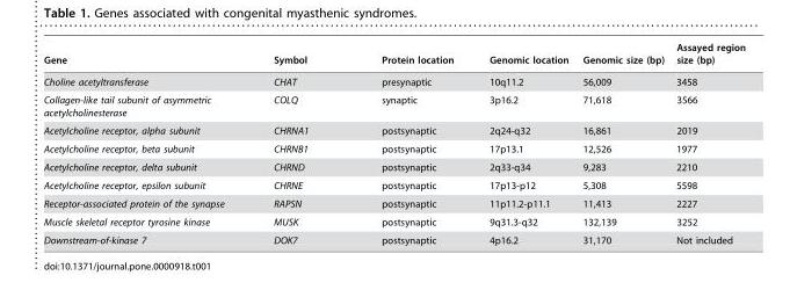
<table><thead><tr><td>Gene</td><td>Symbol</td><td>Protein location</td><td>Genomic location</td><td>Genomic size (bp)</td><td>Assayed region size (bp)</td></tr></thead><tbody><tr><td>Choline acetyltransferase</td><td>CHAT</td><td>presynaptic</td><td>10q11.2</td><td>56,009</td><td>3458</td></tr><tr><td>Collagen-like tail subunit of asymmetric acetylcholinesterase</td><td>COLQ</td><td>synaptic</td><td>3p16.2</td><td>71,618</td><td>3566</td></tr><tr><td>Acetylcholine receptor, alpha subunit</td><td>CHRNA1</td><td>postsynaptic</td><td>2q24-q32</td><td>16,861</td><td>2019</td></tr><tr><td>Acetylcholine receptor, beta subunit</td><td>CHRNB1</td><td>postsynaptic</td><td>17p13.1</td><td>12,526</td><td>1977</td></tr><tr><td>Acetylcholine receptor, delta subunit</td><td>CHRND</td><td>postsynaptic</td><td>2q33-q34</td><td>9,283</td><td>2210</td></tr><tr><td>Acetylcholine receptor, epsilon subunit</td><td>CHRNE</td><td>postsynaptic</td><td>17p13-p12</td><td>5,308</td><td>5598</td></tr><tr><td>Receptor-associated protein of the synapse</td><td>RAPSN</td><td>postsynaptic</td><td>11p11.2-p11.1</td><td>11,413</td><td>2227</td></tr><tr><td>Muscle skeletal receptor tyrosine kinase</td><td>MUSK</td><td>postsynaptic</td><td>9q31.3-q32</td><td>132,139</td><td>3252</td></tr><tr><td>Downstream-of-kinase 7</td><td>DOK7</td><td>postsynaptic</td><td>4p16.2</td><td>31,170</td><td>Not included</td></tr></tbody></table>